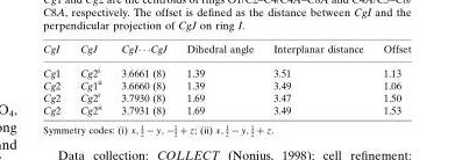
<table><thead><tr><td>CgI</td><td>CgJ</td><td>CgI� � �CgJ</td><td>Dihedral angle</td><td>Interplanar distance</td><td>Offset</td></tr></thead><tbody><tr><td>Cg1</td><td>Cg2<sup>i</sup></td><td>3.6661 (8)</td><td>1.39</td><td>3.51</td><td>1.13</td></tr><tr><td>Cg2</td><td>Cg1<sup>ii</sup></td><td>3.6660 (8)</td><td>1.39</td><td>3.49</td><td>1.06</td></tr><tr><td>Cg2</td><td>Cg2<sup>i</sup></td><td>3.7930 (8)</td><td>1.69</td><td>3.47</td><td>1.50</td></tr><tr><td>Cg2</td><td>Cg2<sup>ii</sup></td><td>3.7931 (8)</td><td>1.69</td><td>3.49</td><td>1.53</td></tr></tbody></table>